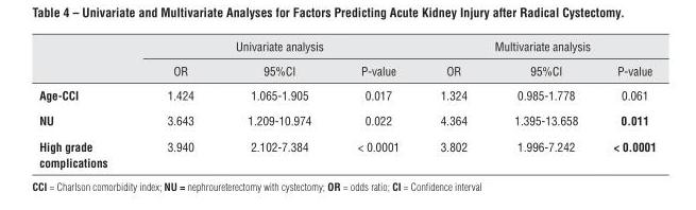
<table><thead><tr><td rowspan="2"></td><td colspan="3">Univariate analysis</td><td colspan="3">Multivariate analysis</td></tr><tr><td>OR</td><td>95%CI</td><td>P-value</td><td>OR</td><td>95%CI</td><td>P-value</td></tr></thead><tbody><tr><td>Age-ccI</td><td>1.424</td><td>1.065-1.905</td><td>0.017</td><td>1.324</td><td>0.985-1.778</td><td>0.061</td></tr><tr><td>NU</td><td>3.643</td><td>1.209-10.974</td><td>0.022</td><td>4.364</td><td>1.395-13.658</td><td>0.011</td></tr><tr><td>High grade complications</td><td>3.940</td><td>2.102-7.384</td><td>&lt; 0.0001</td><td>3.802</td><td>1.996-7.242</td><td>&lt; 0.0001</td></tr></tbody></table>